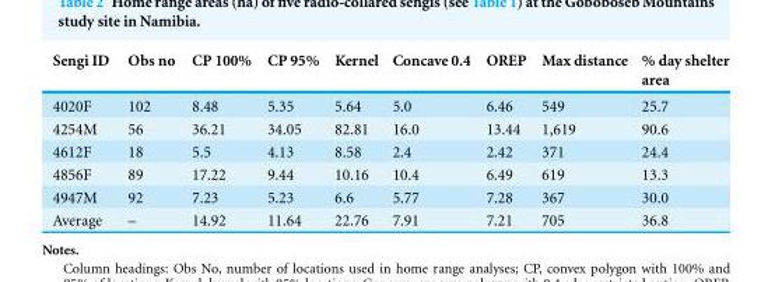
<table><thead><tr><td>Sengi ID</td><td>Obs no</td><td>CP 100%</td><td>CP 95%</td><td>Kernel</td><td>Concave 0.4</td><td>OREP</td><td>Max distance</td><td>% day shelter area</td></tr></thead><tbody><tr><td>4020F</td><td>102</td><td>8.48</td><td>5.35</td><td>5.64</td><td>5.0</td><td>6.46</td><td>549</td><td>25.7</td></tr><tr><td>4254M</td><td>56</td><td>36.21</td><td>34.05</td><td>82.81</td><td>16.0</td><td>13.44</td><td>1,619</td><td>90.6</td></tr><tr><td>4612F</td><td>18</td><td>5.5</td><td>4.13</td><td>8.58</td><td>2.4</td><td>2.42</td><td>371</td><td>24.4</td></tr><tr><td>4856F</td><td>89</td><td>17.22</td><td>9.44</td><td>10.16</td><td>10.4</td><td>6.49</td><td>619</td><td>13.3</td></tr><tr><td>4947M</td><td>92</td><td>7.23</td><td>5.23</td><td>6.6</td><td>5.77</td><td>7.28</td><td>367</td><td>30.0</td></tr><tr><td>Average</td><td>–</td><td>14.92</td><td>11.64</td><td>22.76</td><td>7.91</td><td>7.21</td><td>705</td><td>36.8</td></tr></tbody></table>